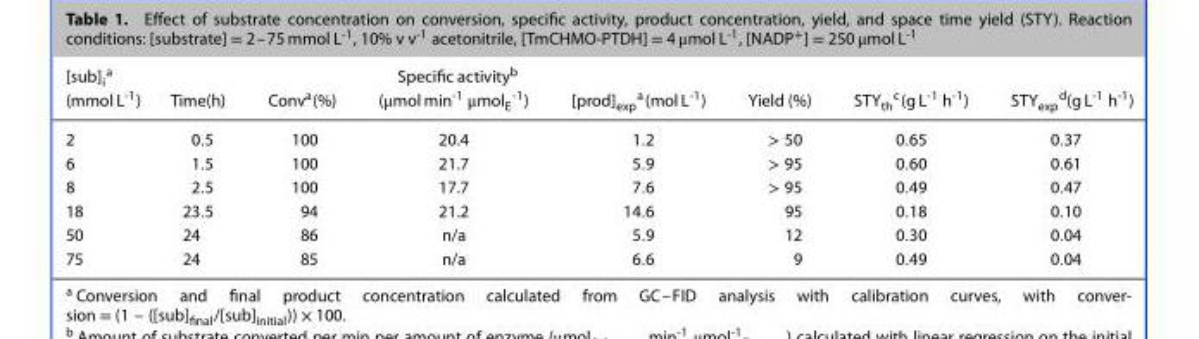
<table><thead><tr><td>[sub]<sub>i</sub>a (mmol L<sup>-1</sup>)</td><td>Time(h)</td><td>Conv<sup>a</sup>(%)</td><td>Specific activity<sup>b</sup> (μmol min<sup>-1</sup> μmol<sub>E</sub><sup>-1</sup>)</td><td>[prod]<sub>exp</sub>a(mol L<sup>-1</sup>)</td><td>Yield (%)</td><td>STY<sub>th</sub>c(g L<sup>-1</sup> h<sup>-1</sup>)</td><td>STY<sub>exp</sub>d(g L<sup>-1</sup> h<sup>-1</sup>)</td></tr></thead><tbody><tr><td>2</td><td>0.5</td><td>100</td><td>20.4</td><td>1.2</td><td>&gt; 50</td><td>0.65</td><td>0.37</td></tr><tr><td>6</td><td>1.5</td><td>100</td><td>21.7</td><td>5.9</td><td>&gt; 95</td><td>0.60</td><td>0.61</td></tr><tr><td>8</td><td>2.5</td><td>100</td><td>17.7</td><td>7.6</td><td>&gt; 95</td><td>0.49</td><td>0.47</td></tr><tr><td>18</td><td>23.5</td><td>94</td><td>21.2</td><td>14.6</td><td>95</td><td>0.18</td><td>0.10</td></tr><tr><td>50</td><td>24</td><td>86</td><td>n/a</td><td>5.9</td><td>12</td><td>0.30</td><td>0.04</td></tr><tr><td>75</td><td>24</td><td>85</td><td>n/a</td><td>6.6</td><td>9</td><td>0.49</td><td>0.04</td></tr></tbody></table>